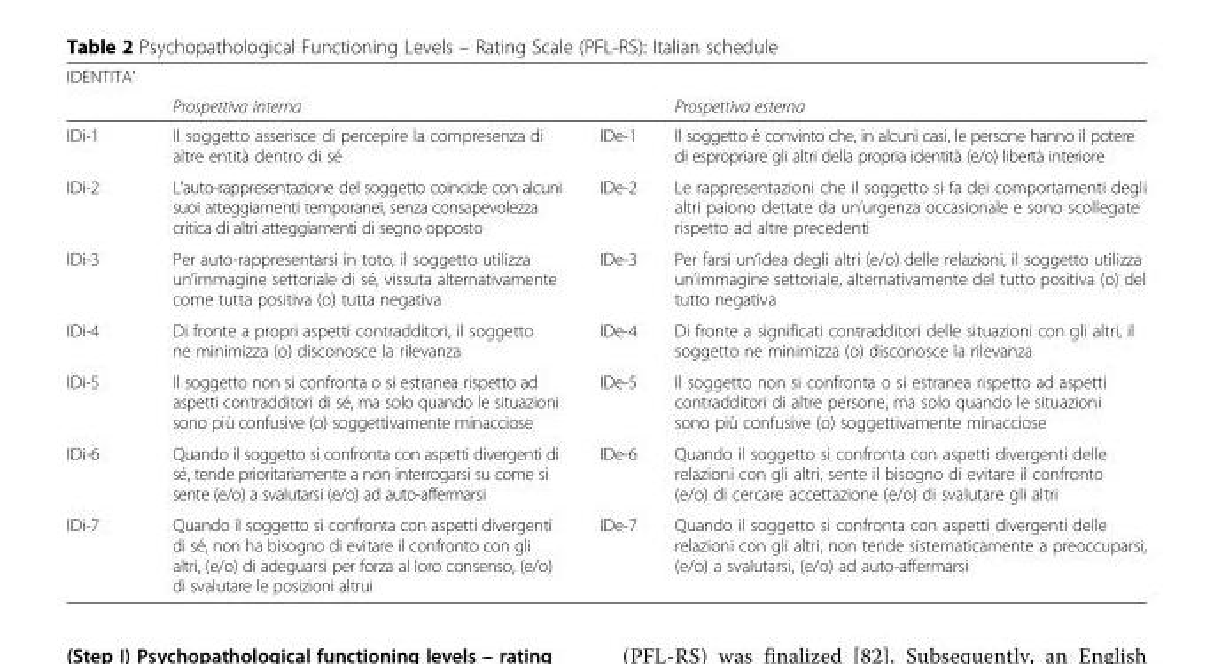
<table><thead><tr><td rowspan="2">IDENTITA’</td><td rowspan="2">Prospettiva interna</td><td rowspan="2"></td><td rowspan="2">Prospettiva esterna</td></tr><tr></tr></thead><tbody><tr><td>IDi-1</td><td>Il soggetto asserisce di percepire la compresenza di altre entità dentro di sé</td><td>IDe-1</td><td>Il soggetto è convinto che, in alcuni casi, le persone hanno il potere di espropriare gli altri della propria identità (e/o) libertà interiore</td></tr><tr><td>IDi-2</td><td>L’auto-rappresentazione del soggetto coincide con alcuni suoi atteggiamenti temporanei, senza consapevolezza critica di altri atteggiamenti di segno opposto</td><td>IDe-2</td><td>Le rappresentazioni che il soggetto si fa dei comportamenti degli altri paiono dettate da un’urgenza occasionale e sono scollegate rispetto ad altre precedenti</td></tr><tr><td>IDi-3</td><td>Per auto-rappresentarsi in toto, il soggetto utilizza un’immagine settoriale di sé, vissuta alternativamente come tutta positiva (o) tutta negativa</td><td>IDe-3</td><td>Per farsi un’idea degli altri (e/o) delle relazioni, il soggetto utilizza un’immagine settoriale, alternativamente del tutto positiva (o) del tutto negativa</td></tr><tr><td>IDi-4</td><td>Di fronte a propri aspetti contradditori, il soggetto ne minimizza (o) disconosce la rilevanza</td><td>IDe-4</td><td>Di fronte a significati contradditori delle situazioni con gli altri, il soggetto ne minimizza (o) disconosce la rilevanza</td></tr><tr><td>IDi-5</td><td>Il soggetto non si confronta o si estranea rispetto ad aspetti contradditori di sé, ma solo quando le situazioni sono più confusive (o) soggettivamente minacciose</td><td>IDe-5</td><td>Il soggetto non si confronta o si estranea rispetto ad aspetti contradditori di altre persone, ma solo quando le situazioni sono più confusive (o) soggettivamente minacciose</td></tr><tr><td>IDi-6</td><td>Quando il soggetto si confronta con aspetti divergenti di sé, tende prioritariamente a non interrogarsi su come si sente (e/o) a svalutarsi (e/o) ad auto-affermarsi</td><td>IDe-6</td><td>Quando il soggetto si confronta con aspetti divergenti delle relazioni con gli altri, sente il bisogno di evitare il confronto (e/o) di cercare accettazione (e/o) di svalutare gli altri</td></tr><tr><td>IDi-7</td><td>Quando il soggetto si confronta con aspetti divergenti di sé, non ha bisogno di evitare il confronto con gli altri, (e/o) di adeguarsi per forza al loro consenso, (e/o) di svalutare le posizioni altrui</td><td>IDe-7</td><td>Quando il soggetto si confronta con aspetti divergenti delle relazioni con gli altri, non tende sistematicamente a preoccuparsi, (e/o) a svalutarsi, (e/o) ad auto-affermarsi</td></tr></tbody></table>